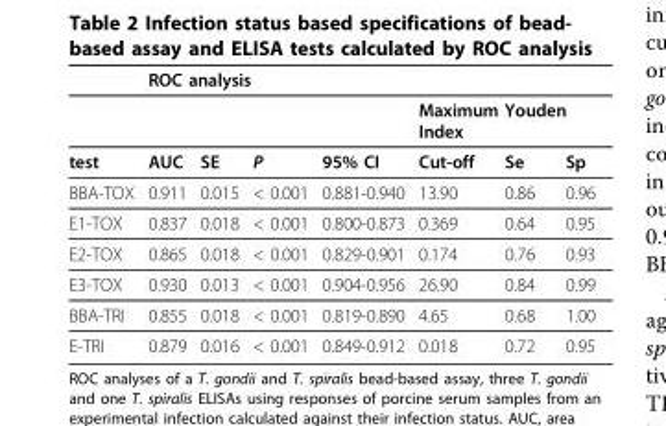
<table><thead><tr><td rowspan="3">test</td><td colspan="7">ROC analysis</td></tr><tr><td rowspan="2">AUC</td><td rowspan="2">SE</td><td rowspan="2">P</td><td rowspan="2">95% CI</td><td colspan="3">Maximum Youden Index</td></tr><tr><td>Cut-off</td><td>Se</td><td>Sp</td></tr></thead><tbody><tr><td>BBA-TOX</td><td>0.911</td><td>0.015</td><td>&lt; 0.001</td><td>0.881-0.940</td><td>13.90</td><td>0.86</td><td>0.96</td></tr><tr><td>E1-TOX</td><td>0.837</td><td>0.018</td><td>&lt; 0.001</td><td>0.800-0.873</td><td>0.369</td><td>0.64</td><td>0.95</td></tr><tr><td>E2-TOX</td><td>0.865</td><td>0.018</td><td>&lt; 0.001</td><td>0.829-0.901</td><td>0.174</td><td>0.76</td><td>0.93</td></tr><tr><td>E3-TOX</td><td>0.930</td><td>0.013</td><td>&lt; 0.001</td><td>0.904-0.956</td><td>26.90</td><td>0.84</td><td>0.99</td></tr><tr><td>BBA-TRI</td><td>0.855</td><td>0.018</td><td>&lt; 0.001</td><td>0.819-0.890</td><td>4.65</td><td>0.68</td><td>1.00</td></tr><tr><td>E-TRI</td><td>0.879</td><td>0.016</td><td>&lt; 0.001</td><td>0.849-0.912</td><td>0.018</td><td>0.72</td><td>0.95</td></tr></tbody></table>